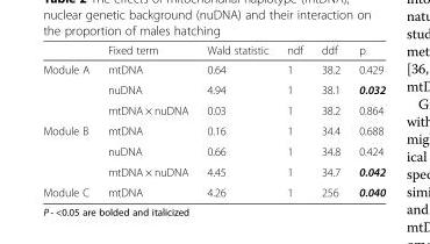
<table><thead><tr><td></td><td>Fixed term</td><td>Wald statistic</td><td>ndf</td><td>ddf</td><td>p</td></tr></thead><tbody><tr><td rowspan="3">Module A</td><td>mtDNA</td><td>0.64</td><td>1</td><td>38.2</td><td>0.429</td></tr><tr><td>nuDNA</td><td>4.94</td><td>1</td><td>38.1</td><td>0.032</td></tr><tr><td>mtDNA × nuDNA</td><td>0.03</td><td>1</td><td>38.2</td><td>0.864</td></tr><tr><td rowspan="3">Module B</td><td>mtDNA</td><td>0.16</td><td>1</td><td>34.4</td><td>0.688</td></tr><tr><td>nuDNA</td><td>0.66</td><td>1</td><td>34.8</td><td>0.424</td></tr><tr><td>mtDNA × nuDNA</td><td>4.45</td><td>1</td><td>34.7</td><td>0.042</td></tr><tr><td>Module C</td><td>mtDNA</td><td>4.26</td><td>1</td><td>256</td><td>0.040</td></tr></tbody></table>